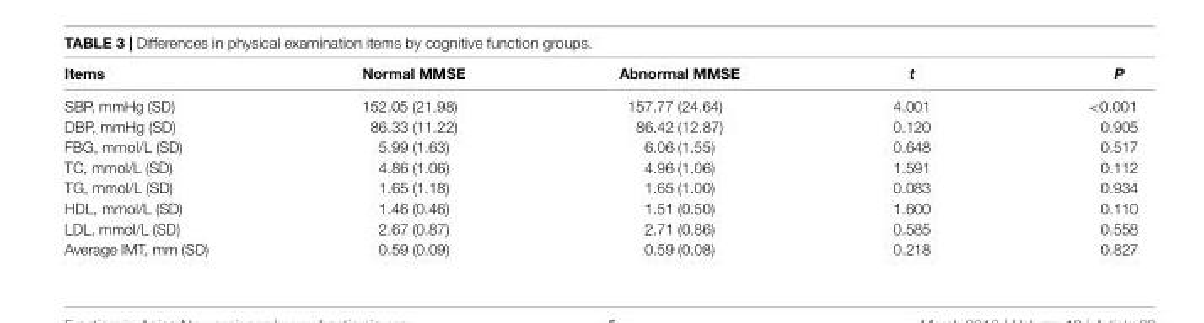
<table><thead><tr><td>Items</td><td>Normal MMSE</td><td>Abnormal MMSE</td><td>t</td><td>P</td></tr></thead><tbody><tr><td>SBP, mmHg (SD)</td><td>152.05 (21.98)</td><td>157.77 (24.64)</td><td>4.001</td><td>&lt;0.001</td></tr><tr><td>DBP, mmHg (SD)</td><td>86.33 (11.22)</td><td>86.42 (12.87)</td><td>0.120</td><td>0.905</td></tr><tr><td>FBG, mmol/L (SD)</td><td>5.99 (1.63)</td><td>6.06 (1.55)</td><td>0.648</td><td>0.517</td></tr><tr><td>TC, mmol/L (SD)</td><td>4.86 (1.06)</td><td>4.96 (1.06)</td><td>1.591</td><td>0.112</td></tr><tr><td>TG, mmol/L (SD)</td><td>1.65 (1.18)</td><td>1.65 (1.00)</td><td>0.083</td><td>0.934</td></tr><tr><td>HDL, mmol/L (SD)</td><td>1.46 (0.46)</td><td>1.51 (0.50)</td><td>1.600</td><td>0.110</td></tr><tr><td>LDL, mmol/L (SD)</td><td>2.67 (0.87)</td><td>2.71 (0.86)</td><td>0.585</td><td>0.558</td></tr><tr><td>Average IMT, mm (SD)</td><td>0.59 (0.09)</td><td>0.59 (0.08)</td><td>0.218</td><td>0.827</td></tr></tbody></table>